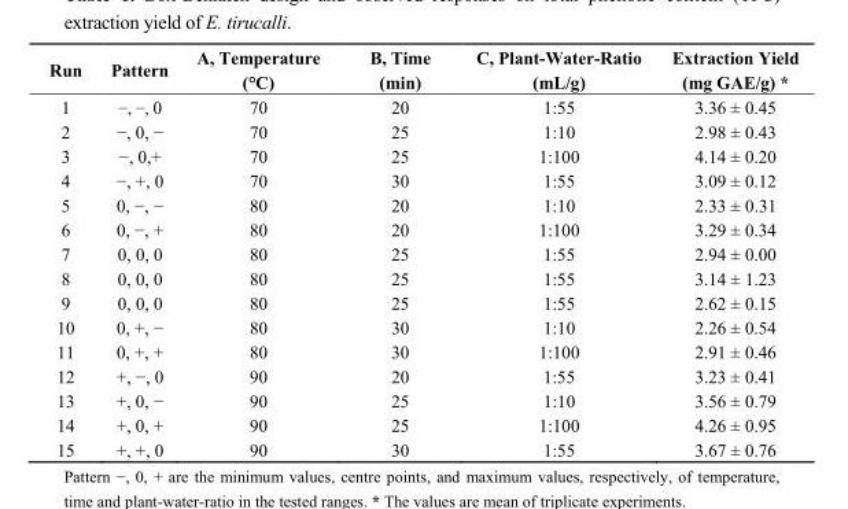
<table><thead><tr><td>Run</td><td>Pattern</td><td>A, Temperature (°C)</td><td>B, Time (min)</td><td>C, Plant-Water-Ratio (mL/g)</td><td>Extraction Yield (mg GAE/g) *</td></tr></thead><tbody><tr><td>1</td><td>−, −, 0</td><td>70</td><td>20</td><td>1:55</td><td>3.36 ± 0.45</td></tr><tr><td>2</td><td>−, 0, −</td><td>70</td><td>25</td><td>1:10</td><td>2.98 ± 0.43</td></tr><tr><td>3</td><td>−, 0,+</td><td>70</td><td>25</td><td>1:100</td><td>4.14 ± 0.20</td></tr><tr><td>4</td><td>−, +, 0</td><td>70</td><td>30</td><td>1:55</td><td>3.09 ± 0.12</td></tr><tr><td>5</td><td>0, −, −</td><td>80</td><td>20</td><td>1:10</td><td>2.33 ± 0.31</td></tr><tr><td>6</td><td>0, −, +</td><td>80</td><td>20</td><td>1:100</td><td>3.29 ± 0.34</td></tr><tr><td>7</td><td>0, 0, 0</td><td>80</td><td>25</td><td>1:55</td><td>2.94 ± 0.00</td></tr><tr><td>8</td><td>0, 0, 0</td><td>80</td><td>25</td><td>1:55</td><td>3.14 ± 1.23</td></tr><tr><td>9</td><td>0, 0, 0</td><td>80</td><td>25</td><td>1:55</td><td>2.62 ± 0.15</td></tr><tr><td>10</td><td>0, +, −</td><td>80</td><td>30</td><td>1:10</td><td>2.26 ± 0.54</td></tr><tr><td>11</td><td>0, +, +</td><td>80</td><td>30</td><td>1:100</td><td>2.91 ± 0.46</td></tr><tr><td>12</td><td>+, −, 0</td><td>90</td><td>20</td><td>1:55</td><td>3.23 ± 0.41</td></tr><tr><td>13</td><td>+, 0, −</td><td>90</td><td>25</td><td>1:10</td><td>3.56 ± 0.79</td></tr><tr><td>14</td><td>+, 0, +</td><td>90</td><td>25</td><td>1:100</td><td>4.26 ± 0.95</td></tr><tr><td>15</td><td>+, +, 0</td><td>90</td><td>30</td><td>1:55</td><td>3.67 ± 0.76</td></tr></tbody></table>